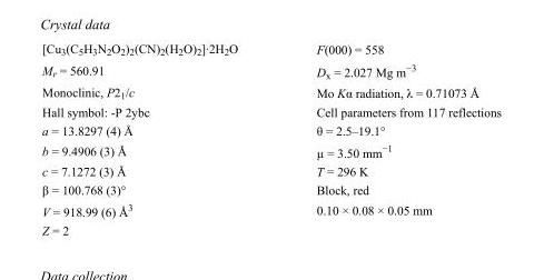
<table><tbody><tr><td>[Cu<sub>3</sub>(C<sub>5</sub>H<sub>3</sub>N<sub>2</sub>O<sub>2</sub>)<sub>2</sub>(CN)<sub>2</sub>(H<sub>2</sub>O)<sub>2</sub>]·2H<sub>2</sub>O</td><td>F(000) = 558</td></tr><tr><td>M<sub>r</sub> = 560.91</td><td>D<sub>x</sub> = 2.027 Mg m<sup>−3</sup></td></tr><tr><td>Monoclinic, P2<sub>1</sub>/c</td><td>Mo Kα radiation, λ = 0.71073 Å</td></tr><tr><td>Hall symbol: -P 2ybc</td><td>Cell parameters from 117 reflections</td></tr><tr><td>a = 13.8297 (4) Å</td><td>θ = 2.5–19.1°</td></tr><tr><td>b = 9.4906 (3) Å</td><td>µ = 3.50 mm<sup>−1</sup></td></tr><tr><td>c = 7.1272 (3) Å</td><td>T = 296 K</td></tr><tr><td>β = 100.768 (3)°</td><td>Block, red</td></tr><tr><td>V = 918.99 (6) Å<sup>3</sup></td><td>0.10 × 0.08 × 0.05 mm</td></tr><tr><td>Z = 2</td><td></td></tr></tbody></table>